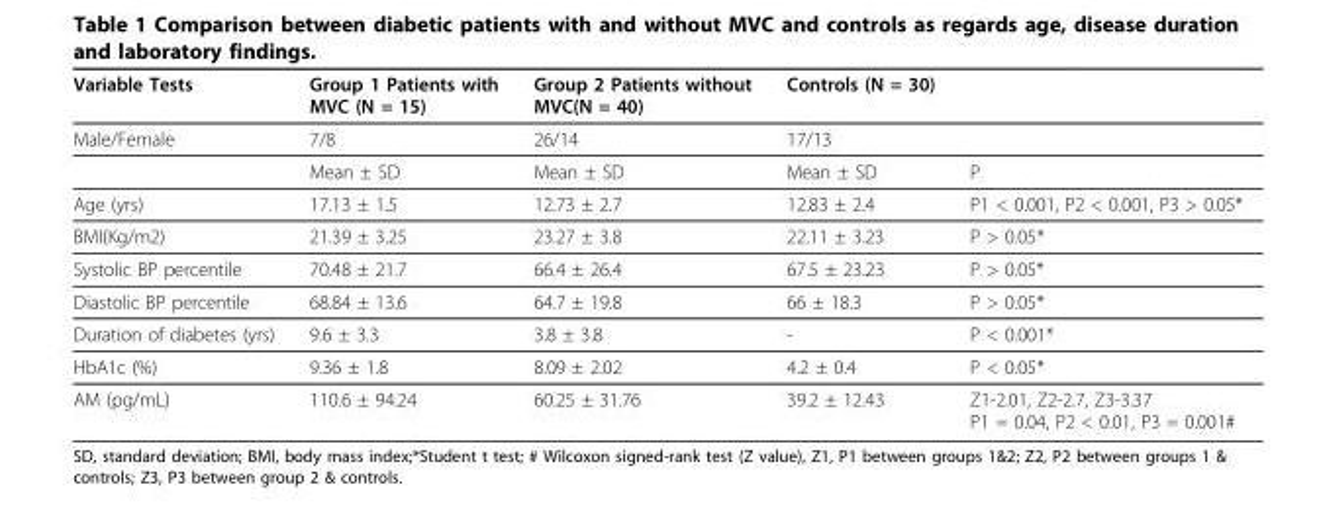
<table><thead><tr><td>Variable Tests</td><td>Group 1 Patients with MVC (N = 15)</td><td>Group 2 Patients without MVC(N = 40)</td><td>Controls (N = 30)</td><td></td></tr></thead><tbody><tr><td rowspan="2">Male/Female</td><td>7/8</td><td>26/14</td><td>17/13</td><td></td></tr><tr><td>Mean ± SD</td><td>Mean ± SD</td><td>Mean ± SD</td><td>P</td></tr><tr><td>Age (yrs)</td><td>17.13 ± 1.5</td><td>12.73 ± 2.7</td><td>12.83 ± 2.4</td><td>P1 &lt; 0.001, P2 &lt; 0.001, P3 &gt; 0.05*</td></tr><tr><td>BMI(Kg/m2)</td><td>21.39 ± 3.25</td><td>23.27 ± 3.8</td><td>22.11 ± 3.23</td><td>P &gt; 0.05*</td></tr><tr><td>Systolic BP percentile</td><td>70.48 ± 21.7</td><td>66.4 ± 26.4</td><td>67.5 ± 23.23</td><td>P &gt; 0.05*</td></tr><tr><td>Diastolic BP percentile</td><td>68.84 ± 13.6</td><td>64.7 ± 19.8</td><td>66 ± 18.3</td><td>P &gt; 0.05*</td></tr><tr><td>Duration of diabetes (yrs)</td><td>9.6 ± 3.3</td><td>3.8 ± 3.8</td><td>-</td><td>P &lt; 0.001*</td></tr><tr><td>HbA1c (%)</td><td>9.36 ± 1.8</td><td>8.09 ± 2.02</td><td>4.2 ± 0.4</td><td>P &lt; 0.05*</td></tr><tr><td>AM (pg/mL)</td><td>110.6 ± 94.24</td><td>60.25 ± 31.76</td><td>39.2 ± 12.43</td><td>Z1-2.01, Z2-2.7, Z3-3.37 P1 = 0.04, P2 &lt; 0.01, P3 = 0.001#</td></tr></tbody></table>